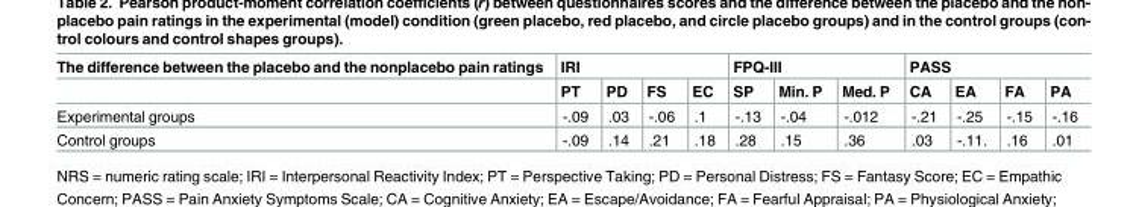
<table><thead><tr><td rowspan="2">The difference between the placebo and the nonplacebo pain ratings</td><td colspan="4">IRI</td><td colspan="3">FPQ-III</td><td colspan="4">PASS</td></tr><tr><td>PT</td><td>PD</td><td>FS</td><td>EC</td><td>SP</td><td>Min. P</td><td>Med. P</td><td>CA</td><td>EA</td><td>FA</td><td>PA</td></tr></thead><tbody><tr><td>Experimental groups</td><td>-.09</td><td>.03</td><td>-.06</td><td>.1</td><td>-.13</td><td>-.04</td><td>-.012</td><td>-.21</td><td>-.25</td><td>-.15</td><td>-.16</td></tr><tr><td>Control groups</td><td>-.09</td><td>.14</td><td>.21</td><td>.18</td><td>.28</td><td>.15</td><td>.36</td><td>.03</td><td>-.11.</td><td>.16</td><td>.01</td></tr></tbody></table>